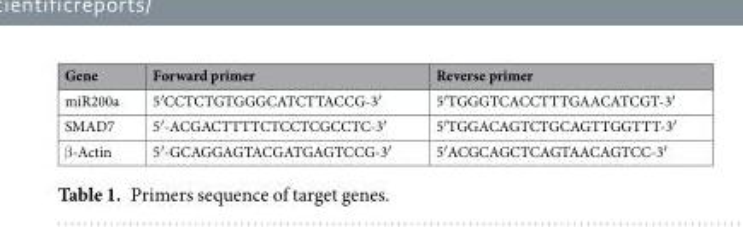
<table><thead><tr><td>Gene</td><td>Forward primer</td><td>Reverse primer</td></tr></thead><tbody><tr><td>miR200a</td><td>5′CCTCTGTGGGCATCTTACCG-3′</td><td>5′TGGGTCACCTTTGAACATCGT-3′</td></tr><tr><td>SMAD7</td><td>5′-ACGACTTTTCTCCTCGCCTC-3′</td><td>5′TGGACAGTCTGCAGTTGGTTT-3′</td></tr><tr><td>β-Actin</td><td>5′-GCAGGAGTACGATGAGTCCG-3′</td><td>5′ACGCAGCTCAGTAACAGTCC-3′</td></tr></tbody></table>